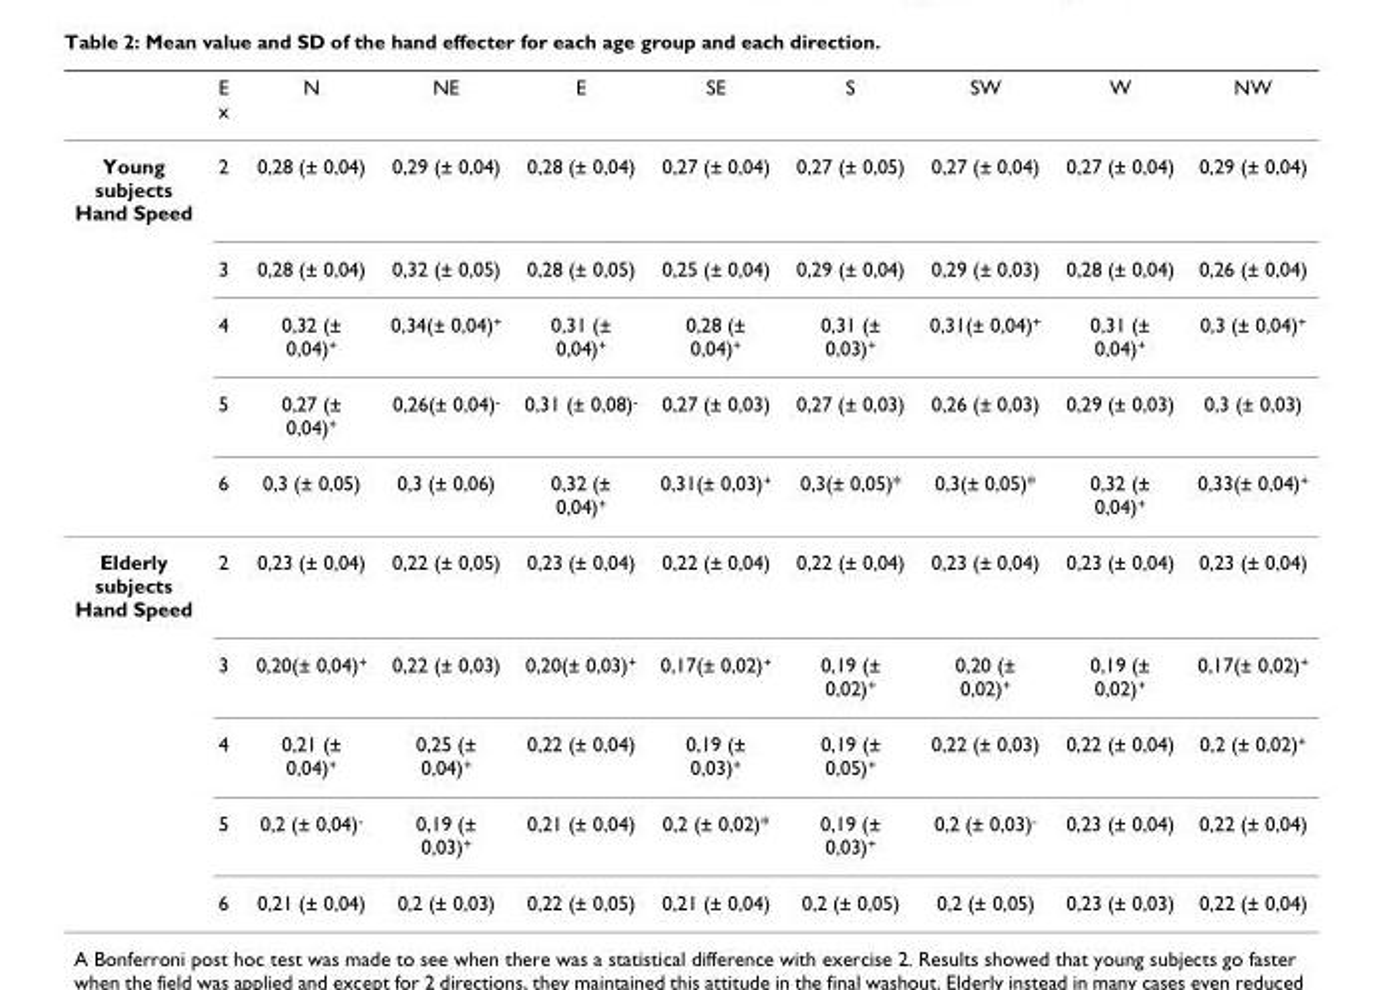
<table><thead><tr><td></td><td>E x</td><td>N</td><td>NE</td><td>E</td><td>SE</td><td>S</td><td>SW</td><td>W</td><td>NW</td></tr></thead><tbody><tr><td rowspan="5">Young subjects Hand Speed</td><td>2</td><td>0,28 (± 0,04)</td><td>0,29 (± 0,04)</td><td>0,28 (± 0,04)</td><td>0,27 (± 0,04)</td><td>0,27 (± 0,05)</td><td>0,27 (± 0,04)</td><td>0,27 (± 0,04)</td><td>0,29 (± 0,04)</td></tr><tr><td>3</td><td>0,28 (± 0,04)</td><td>0,32 (± 0,05)</td><td>0,28 (± 0,05)</td><td>0,25 (± 0,04)</td><td>0,29 (± 0,04)</td><td>0,29 (± 0,03)</td><td>0,28 (± 0,04)</td><td>0,26 (± 0,04)</td></tr><tr><td>4</td><td>0,32 (± 0,04)<sup>+</sup></td><td>0,34(± 0,04)<sup>+</sup></td><td>0,31 (± 0,04)<sup>+</sup></td><td>0,28 (± 0,04)<sup>+</sup></td><td>0,31 (± 0,03)<sup>+</sup></td><td>0,31(± 0,04)<sup>+</sup></td><td>0,31 (± 0,04)<sup>+</sup></td><td>0,3 (± 0,04)<sup>+</sup></td></tr><tr><td>5</td><td>0,27 (± 0,04)<sup>+</sup></td><td>0,26(± 0,04)<sup>-</sup></td><td>0,31 (± 0,08)<sup>-</sup></td><td>0,27 (± 0,03)</td><td>0,27 (± 0,03)</td><td>0,26 (± 0,03)</td><td>0,29 (± 0,03)</td><td>0,3 (± 0,03)</td></tr><tr><td>6</td><td>0,3 (± 0,05)</td><td>0,3 (± 0,06)</td><td>0,32 (± 0,04)<sup>+</sup></td><td>0,31(± 0,03)<sup>+</sup></td><td>0,3(± 0,05)*</td><td>0,3(± 0,05)*</td><td>0,32 (± 0,04)<sup>+</sup></td><td>0,33(± 0,04)<sup>+</sup></td></tr><tr><td rowspan="5">Elderly subjects Hand Speed</td><td>2</td><td>0,23 (± 0,04)</td><td>0,22 (± 0,05)</td><td>0,23 (± 0,04)</td><td>0,22 (± 0,04)</td><td>0,22 (± 0,04)</td><td>0,23 (± 0,04)</td><td>0,23 (± 0,04)</td><td>0,23 (± 0,04)</td></tr><tr><td>3</td><td>0,20(± 0,04)<sup>+</sup></td><td>0,22 (± 0,03)</td><td>0,20(± 0,03)<sup>+</sup></td><td>0,17(± 0,02)<sup>+</sup></td><td>0,19 (± 0,02)<sup>+</sup></td><td>0,20 (± 0,02)<sup>+</sup></td><td>0,19 (± 0,02)<sup>+</sup></td><td>0,17(± 0,02)<sup>+</sup></td></tr><tr><td>4</td><td>0,21 (± 0,04)<sup>+</sup></td><td>0,25 (± 0,04)<sup>+</sup></td><td>0,22 (± 0,04)</td><td>0,19 (± 0,03)<sup>+</sup></td><td>0,19 (± 0,05)<sup>+</sup></td><td>0,22 (± 0,03)</td><td>0,22 (± 0,04)</td><td>0,2 (± 0,02)<sup>+</sup></td></tr><tr><td>5</td><td>0,2 (± 0,04)<sup>-</sup></td><td>0,19 (± 0,03)<sup>+</sup></td><td>0,21 (± 0,04)</td><td>0,2 (± 0,02)*</td><td>0,19 (± 0,03)<sup>+</sup></td><td>0,2 (± 0,03)<sup>-</sup></td><td>0,23 (± 0,04)</td><td>0,22 (± 0,04)</td></tr><tr><td>6</td><td>0,21 (± 0,04)</td><td>0,2 (± 0,03)</td><td>0,22 (± 0,05)</td><td>0,21 (± 0,04)</td><td>0,2 (± 0,05)</td><td>0,2 (± 0,05)</td><td>0,23 (± 0,03)</td><td>0,22 (± 0,04)</td></tr></tbody></table>